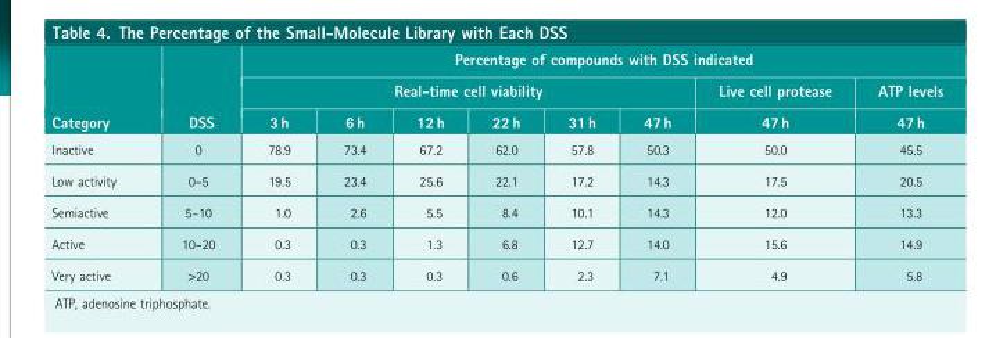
<table><thead><tr><td rowspan="3">Category</td><td rowspan="3">DSS</td><td colspan="8">Percentage of compounds with DSS indicated</td></tr><tr><td colspan="6">Real-time cell viability</td><td rowspan="2">Live cell protease 47 h</td><td rowspan="2">ATP levels 47 h</td></tr><tr><td>3 h</td><td>6 h</td><td>12 h</td><td>22 h</td><td>31 h</td><td>47 h</td></tr></thead><tbody><tr><td>Inactive</td><td>0</td><td>78.9</td><td>73.4</td><td>67.2</td><td>62.0</td><td>57.8</td><td>50.3</td><td>50.0</td><td>45.5</td></tr><tr><td>Low activity</td><td>0–5</td><td>19.5</td><td>23.4</td><td>25.6</td><td>22.1</td><td>17.2</td><td>14.3</td><td>17.5</td><td>20.5</td></tr><tr><td>Semiactive</td><td>5–10</td><td>1.0</td><td>2.6</td><td>5.5</td><td>8.4</td><td>10.1</td><td>14.3</td><td>12.0</td><td>13.3</td></tr><tr><td>Active</td><td>10–20</td><td>0.3</td><td>0.3</td><td>1.3</td><td>6.8</td><td>12.7</td><td>14.0</td><td>15.6</td><td>14.9</td></tr><tr><td>Very active</td><td>&gt;20</td><td>0.3</td><td>0.3</td><td>0.3</td><td>0.6</td><td>2.3</td><td>7.1</td><td>4.9</td><td>5.8</td></tr></tbody></table>